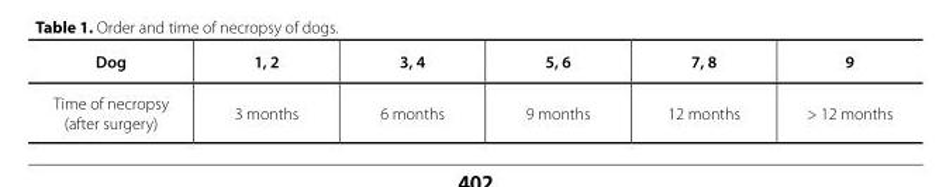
<table><thead><tr><td>Dog</td><td>1, 2</td><td>3, 4</td><td>5, 6</td><td>7, 8</td><td>9</td></tr></thead><tbody><tr><td>Time of necropsy (after surgery)</td><td>3 months</td><td>6 months</td><td>9 months</td><td>12 months</td><td>&gt; 12 months</td></tr></tbody></table>